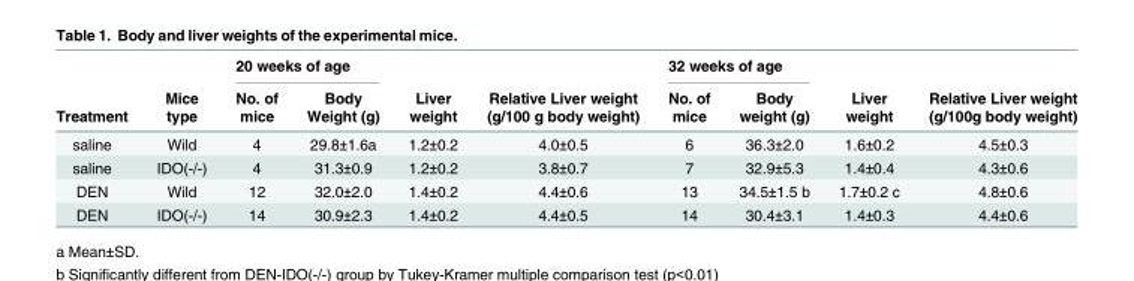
<table><thead><tr><td rowspan="3">Treatment</td><td rowspan="3">Mice type</td><td colspan="2">20 weeks of age</td><td rowspan="3">Liver weight</td><td rowspan="3">Relative Liver weight (g/100 g body weight)</td><td colspan="2">32 weeks of age</td><td rowspan="3">Liver weight</td><td rowspan="3">Relative Liver weight (g/100g body weight)</td></tr><tr><td rowspan="2">No. of mice</td><td rowspan="2">Body Weight (g)</td><td rowspan="2">No. of mice</td><td rowspan="2">Body weight (g)</td></tr><tr></tr></thead><tbody><tr><td>saline</td><td>Wild</td><td>4</td><td>29.8±1.6<sup>a</sup></td><td>1.2±0.2</td><td>4.0±0.5</td><td>6</td><td>36.3±2.0</td><td>1.6±0.2</td><td>4.5±0.3</td></tr><tr><td>saline</td><td>IDO(-/-)</td><td>4</td><td>31.3±0.9</td><td>1.2±0.2</td><td>3.8±0.7</td><td>7</td><td>32.9±5.3</td><td>1.4±0.4</td><td>4.3±0.6</td></tr><tr><td>DEN</td><td>Wild</td><td>12</td><td>32.0±2.0</td><td>1.4±0.2</td><td>4.4±0.6</td><td>13</td><td>34.5±1.5 b</td><td>1.7±0.2 c</td><td>4.8±0.6</td></tr><tr><td>DEN</td><td>IDO(-/-)</td><td>14</td><td>30.9±2.3</td><td>1.4±0.2</td><td>4.4±0.5</td><td>14</td><td>30.4±3.1</td><td>1.4±0.3</td><td>4.4±0.6</td></tr></tbody></table>